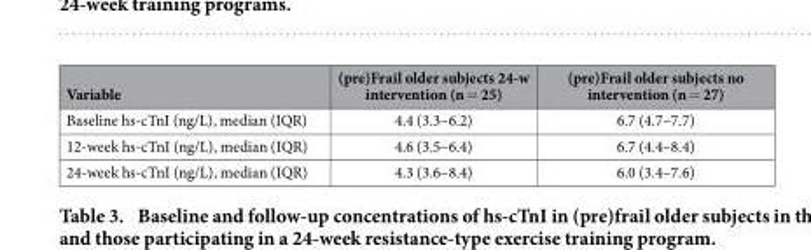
<table><thead><tr><td>Variable</td><td>(pre)Frail older subjects 24-w intervention (n = 25)</td><td>(pre)Frail older subjects no intervention (n = 27)</td></tr></thead><tbody><tr><td>Baseline hs-cTnI (ng/L), median (IQR)</td><td>4.4 (3.3–6.2)</td><td>6.7 (4.7–7.7)</td></tr><tr><td>12-week hs-cTnI (ng/L), median (IQR)</td><td>4.6 (3.5–6.4)</td><td>6.7 (4.4–8.4)</td></tr><tr><td>24-week hs-cTnI (ng/L), median (IQR)</td><td>4.3 (3.6–8.4)</td><td>6.0 (3.4–7.6)</td></tr></tbody></table>